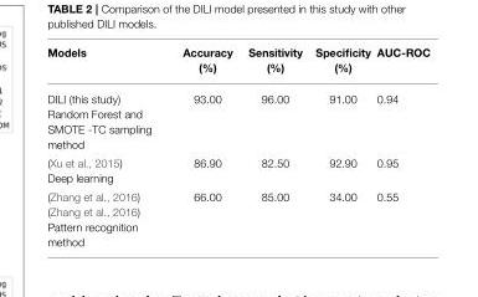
<table><thead><tr><td>Models</td><td>Accuracy (%)</td><td>Sensitivity (%)</td><td>Specificity (%)</td><td>AUC-ROC</td></tr></thead><tbody><tr><td>DILI (this study) Random Forest and SMOTE -TC sampling method</td><td>93.00</td><td>96.00</td><td>91.00</td><td>0.94</td></tr><tr><td>(Xu et al., 2015) Deep learning</td><td>86.90</td><td>82.50</td><td>92.90</td><td>0.95</td></tr><tr><td>(Zhang et al., 2016) (Zhang et al., 2016) Pattern recognition method</td><td>66.00</td><td>85.00</td><td>34.00</td><td>0.55</td></tr></tbody></table>